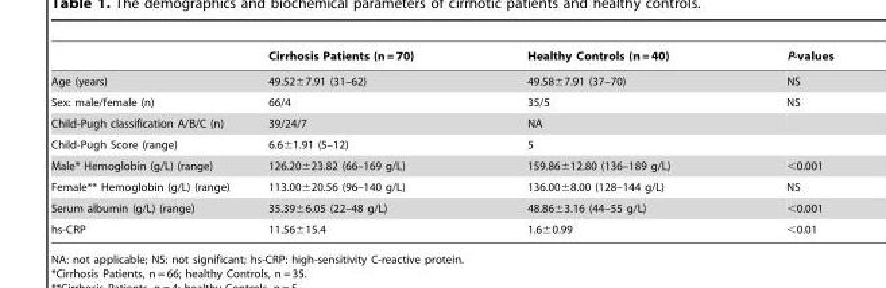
<table><thead><tr><td></td><td>Cirrhosis Patients (n = 70)</td><td>Healthy Controls (n = 40)</td><td>P-values</td></tr></thead><tbody><tr><td>Age (years)</td><td>49.52±7.91 (31–62)</td><td>49.58±7.91 (37–70)</td><td>NS</td></tr><tr><td>Sex: male/female (n)</td><td>66/4</td><td>35/5</td><td>NS</td></tr><tr><td>Child-Pugh classification A/B/C (n)</td><td>39/24/7</td><td>NA</td><td></td></tr><tr><td>Child-Pugh Score (range)</td><td>6.6±1.91 (5–12)</td><td>5</td><td></td></tr><tr><td>Male* Hemoglobin (g/L) (range)</td><td>126.20±23.82 (66–169 g/L)</td><td>159.86±12.80 (136–189 g/L)</td><td>&lt;0.001</td></tr><tr><td>Female** Hemoglobin (g/L) (range)</td><td>113.00±20.56 (96–140 g/L)</td><td>136.00±8.00 (128–144 g/L)</td><td>NS</td></tr><tr><td>Serum albumin (g/L) (range)</td><td>35.39±6.05 (22–48 g/L)</td><td>48.86±3.16 (44–55 g/L)</td><td>&lt;0.001</td></tr><tr><td>hs-CRP</td><td>11.56±15.4</td><td>1.6±0.99</td><td>&lt;0.01</td></tr></tbody></table>